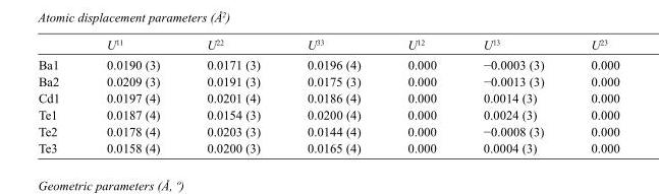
<table><thead><tr><td></td><td>U<sup>11</sup></td><td>U<sup>22</sup></td><td>U<sup>33</sup></td><td>U<sup>12</sup></td><td>U<sup>13</sup></td><td>U<sup>23</sup></td></tr></thead><tbody><tr><td>Ba1</td><td>0.0190 (3)</td><td>0.0171 (3)</td><td>0.0196 (4)</td><td>0.000</td><td>−0.0003 (3)</td><td>0.000</td></tr><tr><td>Ba2</td><td>0.0209 (3)</td><td>0.0191 (3)</td><td>0.0175 (3)</td><td>0.000</td><td>−0.0013 (3)</td><td>0.000</td></tr><tr><td>Cd1</td><td>0.0197 (4)</td><td>0.0201 (4)</td><td>0.0186 (4)</td><td>0.000</td><td>0.0014 (3)</td><td>0.000</td></tr><tr><td>Te1</td><td>0.0187 (4)</td><td>0.0154 (3)</td><td>0.0200 (4)</td><td>0.000</td><td>0.0024 (3)</td><td>0.000</td></tr><tr><td>Te2</td><td>0.0178 (4)</td><td>0.0203 (3)</td><td>0.0144 (4)</td><td>0.000</td><td>−0.0008 (3)</td><td>0.000</td></tr><tr><td>Te3</td><td>0.0158 (4)</td><td>0.0200 (3)</td><td>0.0165 (4)</td><td>0.000</td><td>0.0004 (3)</td><td>0.000</td></tr></tbody></table>